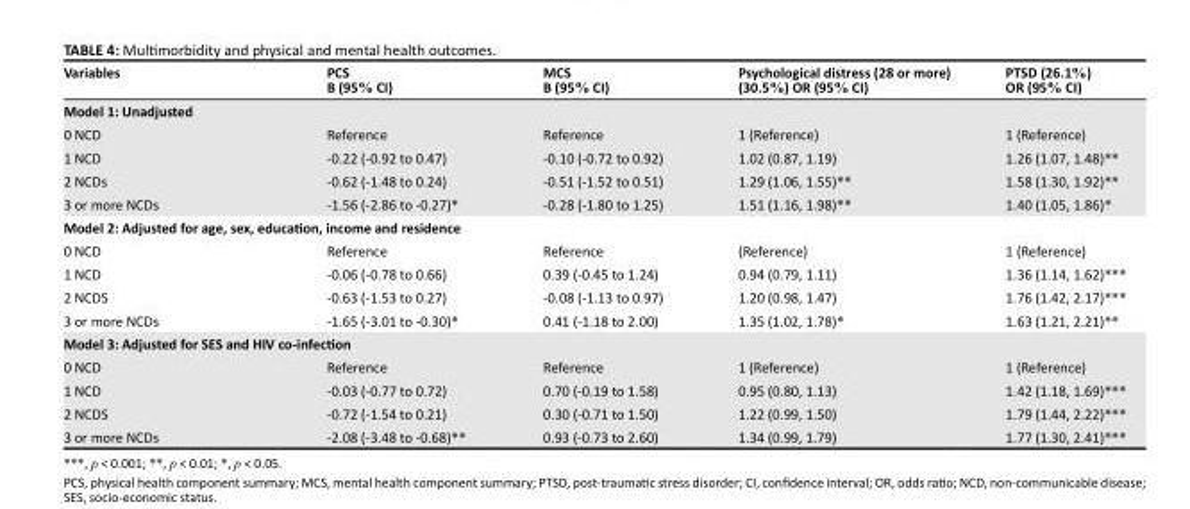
<table><thead><tr><td>Variables</td><td>PCS B (95% CI)</td><td>MCS B (95% CI)</td><td>Psychological distress (28 or more) (30.5%) OR (95% CI)</td><td>PTSD (26.1%) OR (95% CI)</td></tr></thead><tbody><tr><td colspan="5">Model 1: Unadjusted</td></tr><tr><td>0 NCD 1 NCD 2 NCDs 3 or more NCDs</td><td>Reference -0.22 (-0.92 to 0.47) -0.62 (-1.48 to 0.24) -1.56 (-2.86 to -0.27)*</td><td>Reference -0.10 (-0.72 to 0.92) -0.51 (-1.52 to 0.51) -0.28 (-1.80 to 1.25)</td><td>1 (Reference) 1.02 (0.87, 1.19) 1.29 (1.06, 1.55)** 1.51 (1.16, 1.98)**</td><td>1 (Reference) 1.26 (1.07, 1.48)** 1.58 (1.30, 1.92)** 1.40 (1.05, 1.86)*</td></tr><tr><td colspan="5">Model 2: Adjusted for age, sex, education, income and residence</td></tr><tr><td>0 NCD 1 NCD 2 NCDS 3 or more NCDs</td><td>Reference -0.06 (-0.78 to 0.66) -0.63 (-1.53 to 0.27) -1.65 (-3.01 to -0.30)*</td><td>Reference 0.39 (-0.45 to 1.24) -0.08 (-1.13 to 0.97) 0.41 (-1.18 to 2.00)</td><td>(Reference) 0.94 (0.79, 1.11) 1.20 (0.98, 1.47) 1.35 (1.02, 1.78)*</td><td>1 (Reference) 1.36 (1.14, 1.62)*** 1.76 (1.42, 2.17)*** 1.63 (1.21, 2.21)**</td></tr><tr><td colspan="5">Model 3: Adjusted for SES and HIV co-infection</td></tr><tr><td>0 NCD 1 NCD 2 NCDS 3 or more NCDs</td><td>Reference -0.03 (-0.77 to 0.72) -0.72 (-1.54 to 0.21) -2.08 (-3.48 to -0.68)**</td><td>Reference 0.70 (-0.19 to 1.58) 0.30 (-0.71 to 1.50) 0.93 (-0.73 to 2.60)</td><td>1 (Reference) 0.95 (0.80, 1.13) 1.22 (0.99, 1.50) 1.34 (0.99, 1.79)</td><td>1 (Reference) 1.42 (1.18, 1.69)*** 1.79 (1.44, 2.22)*** 1.77 (1.30, 2.41)***</td></tr></tbody></table>